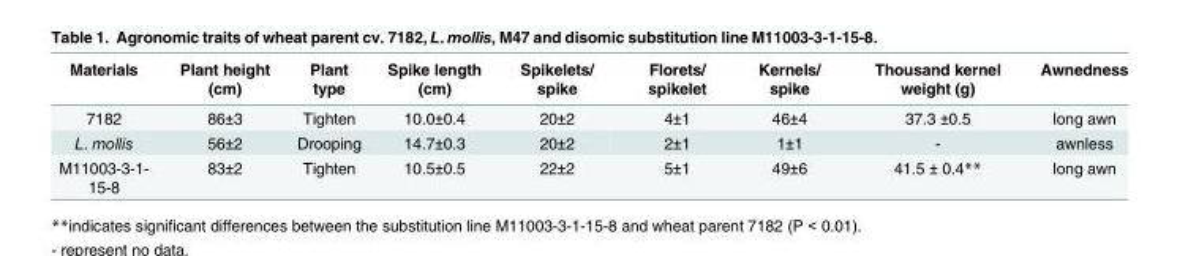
<table><thead><tr><td>Materials</td><td>Plant height (cm)</td><td>Plant type</td><td>Spike length (cm)</td><td>Spikelets/ spike</td><td>Florets/ spikelet</td><td>Kernels/ spike</td><td>Thousand kernel weight (g)</td><td>Awnedness</td></tr></thead><tbody><tr><td>7182</td><td>86±3</td><td>Tighten</td><td>10.0±0.4</td><td>20±2</td><td>4±1</td><td>46±4</td><td>37.3 ±0.5</td><td>long awn</td></tr><tr><td>L. mollis</td><td>56±2</td><td>Drooping</td><td>14.7±0.3</td><td>20±2</td><td>2±1</td><td>1±1</td><td>-</td><td>awnless</td></tr><tr><td>M11003-3-1- 15-8</td><td>83±2</td><td>Tighten</td><td>10.5±0.5</td><td>22±2</td><td>5±1</td><td>49±6</td><td>41.5 ± 0.4**</td><td>long awn</td></tr></tbody></table>